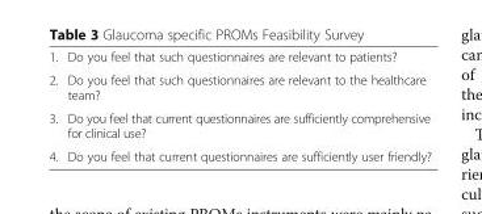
<table><tbody><tr><td>1.</td><td>Do you feel that such questionnaires are relevant to patients?</td></tr><tr><td>2.</td><td>Do you feel that such questionnaires are relevant to the healthcare team?</td></tr><tr><td>3.</td><td>Do you feel that current questionnaires are sufficiently comprehensive for clinical use?</td></tr><tr><td>4.</td><td>Do you feel that current questionnaires are sufficiently user friendly?</td></tr></tbody></table>